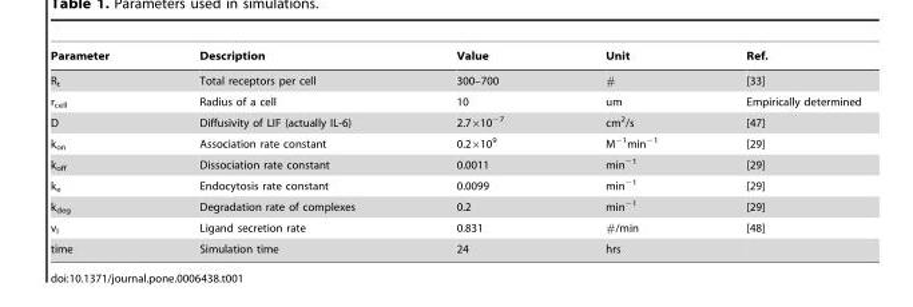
<table><thead><tr><td>Parameter</td><td>Description</td><td>Value</td><td>Unit</td><td>Ref.</td></tr></thead><tbody><tr><td>R<sub>t</sub></td><td>Total receptors per cell</td><td>300–700</td><td>#</td><td>[33]</td></tr><tr><td>r<sub>cell</sub></td><td>Radius of a cell</td><td>10</td><td>um</td><td>Empirically determined</td></tr><tr><td>D</td><td>Diffusivity of LIF (actually IL-6)</td><td>2.7×10<sup>−7</sup></td><td>cm<sup>2</sup>/s</td><td>[47]</td></tr><tr><td>k<sub>on</sub></td><td>Association rate constant</td><td>0.2×10<sup>9</sup></td><td>M<sup>−1</sup>min<sup>−1</sup></td><td>[29]</td></tr><tr><td>k<sub>off</sub></td><td>Dissociation rate constant</td><td>0.0011</td><td>min<sup>−1</sup></td><td>[29]</td></tr><tr><td>k<sub>e</sub></td><td>Endocytosis rate constant</td><td>0.0099</td><td>min<sup>−1</sup></td><td>[29]</td></tr><tr><td>k<sub>deg</sub></td><td>Degradation rate of complexes</td><td>0.2</td><td>min<sup>−1</sup></td><td>[29]</td></tr><tr><td>v<sub>l</sub></td><td>Ligand secretion rate</td><td>0.831</td><td>#/min</td><td>[48]</td></tr><tr><td>time</td><td>Simulation time</td><td>24</td><td>hrs</td><td></td></tr></tbody></table>